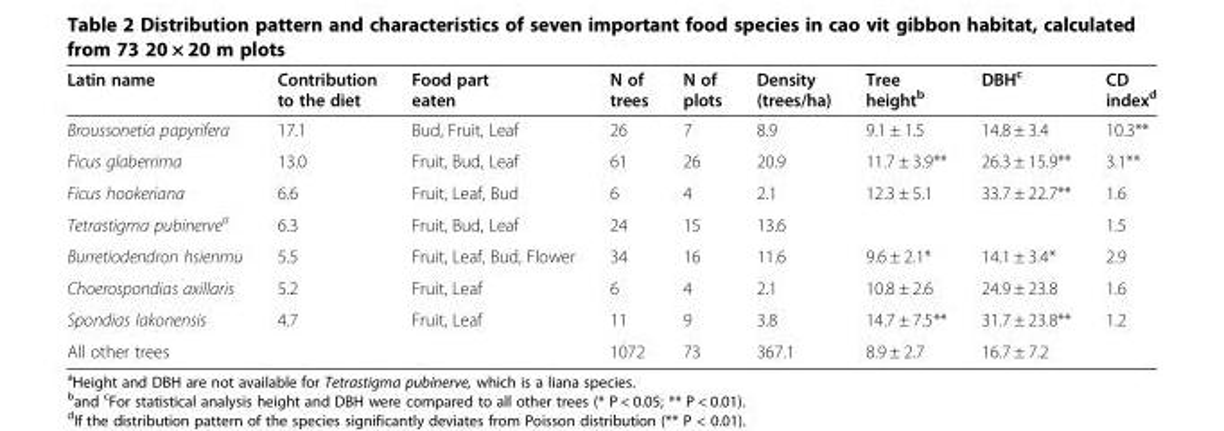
<table><thead><tr><td>Latin name</td><td>Contribution to the diet</td><td>Food part eaten</td><td>N of trees</td><td>N of plots</td><td>Density (trees/ha)</td><td>Tree height<sup>b</sup></td><td>DBH<sup>c</sup></td><td>CD index<sup>d</sup></td></tr></thead><tbody><tr><td>Broussonetia papyrifera</td><td>17.1</td><td>Bud, Fruit, Leaf</td><td>26</td><td>7</td><td>8.9</td><td>9.1 ± 1.5</td><td>14.8 ± 3.4</td><td>10.3**</td></tr><tr><td>Ficus glaberrima</td><td>13.0</td><td>Fruit, Bud, Leaf</td><td>61</td><td>26</td><td>20.9</td><td>11.7 ± 3.9**</td><td>26.3 ± 15.9**</td><td>3.1**</td></tr><tr><td>Ficus hookeriana</td><td>6.6</td><td>Fruit, Leaf, Bud</td><td>6</td><td>4</td><td>2.1</td><td>12.3 ± 5.1</td><td>33.7 ± 22.7**</td><td>1.6</td></tr><tr><td>Tetrastigma pubinerve<sup>a</sup></td><td>6.3</td><td>Fruit, Bud, Leaf</td><td>24</td><td>15</td><td>13.6</td><td></td><td></td><td>1.5</td></tr><tr><td>Burretiodendron hsienmu</td><td>5.5</td><td>Fruit, Leaf, Bud, Flower</td><td>34</td><td>16</td><td>11.6</td><td>9.6 ± 2.1*</td><td>14.1 ± 3.4*</td><td>2.9</td></tr><tr><td>Choerospondias axillaris</td><td>5.2</td><td>Fruit, Leaf</td><td>6</td><td>4</td><td>2.1</td><td>10.8 ± 2.6</td><td>24.9 ± 23.8</td><td>1.6</td></tr><tr><td>Spondias lakonensis</td><td>4.7</td><td>Fruit, Leaf</td><td>11</td><td>9</td><td>3.8</td><td>14.7 ± 7.5**</td><td>31.7 ± 23.8**</td><td>1.2</td></tr><tr><td>All other trees</td><td></td><td></td><td>1072</td><td>73</td><td>367.1</td><td>8.9 ± 2.7</td><td>16.7 ± 7.2</td><td></td></tr></tbody></table>